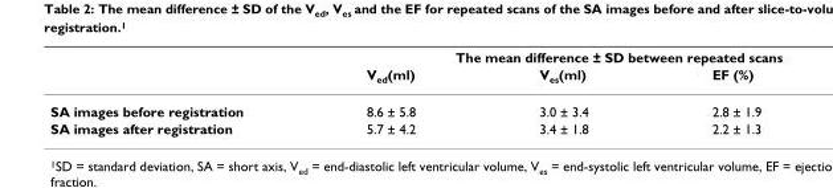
<table><thead><tr><td rowspan="2"></td><td colspan="3">The mean difference ± SD between repeated scans</td></tr><tr><td>V<sub>ed</sub>(ml)</td><td>V<sub>es</sub>(ml)</td><td>EF (%)</td></tr></thead><tbody><tr><td>SA images before registration</td><td>8.6 ± 5.8</td><td>3.0 ± 3.4</td><td>2.8 ± 1.9</td></tr><tr><td>SA images after registration</td><td>5.7 ± 4.2</td><td>3.4 ± 1.8</td><td>2.2 ± 1.3</td></tr></tbody></table>